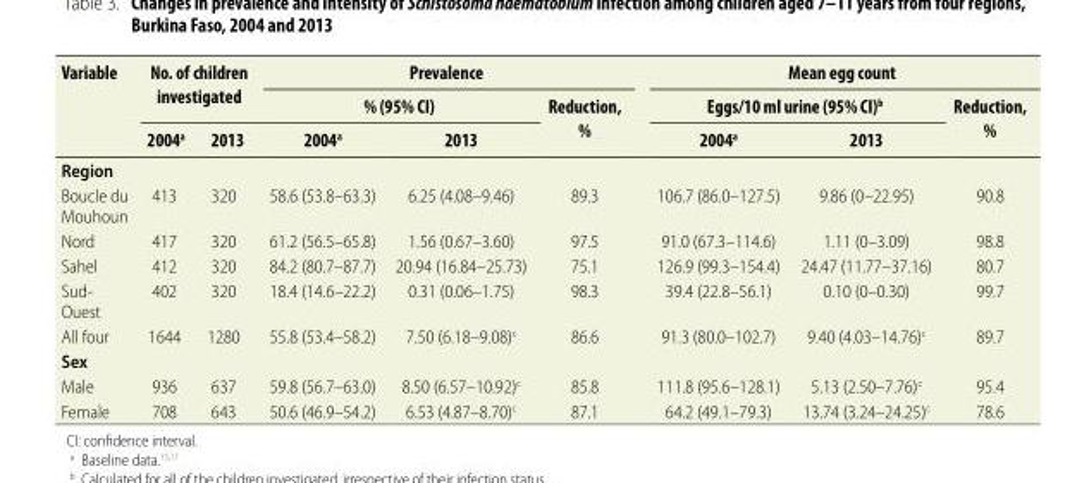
<table><thead><tr><td rowspan="3">Variable</td><td rowspan="2" colspan="2">No. of children investigated</td><td colspan="3">Prevalence</td><td colspan="3">Mean egg count</td></tr><tr><td colspan="2">% (95% CI)</td><td rowspan="2">Reduction, %</td><td colspan="2">Eggs/10 ml urine (95% CI)<sup>b</sup></td><td rowspan="2">Reduction, %</td></tr><tr><td>2004<sup>a</sup></td><td>2013</td><td>2004<sup>a</sup></td><td>2013</td><td>2004<sup>a</sup></td><td>2013</td></tr></thead><tbody><tr><td colspan="9">Region</td></tr><tr><td>Boucle du Mouhoun</td><td>413</td><td>320</td><td>58.6 (53.8–63.3)</td><td>6.25 (4.08–9.46)</td><td>89.3</td><td>106.7 (86.0–127.5)</td><td>9.86 (0–22.95)</td><td>90.8</td></tr><tr><td>Nord</td><td>417</td><td>320</td><td>61.2 (56.5–65.8)</td><td>1.56 (0.67–3.60)</td><td>97.5</td><td>91.0 (67.3–114.6)</td><td>1.11 (0–3.09)</td><td>98.8</td></tr><tr><td>Sahel</td><td>412</td><td>320</td><td>84.2 (80.7–87.7)</td><td>20.94 (16.84–25.73)</td><td>75.1</td><td>126.9 (99.3–154.4)</td><td>24.47 (11.77–37.16)</td><td>80.7</td></tr><tr><td>Sud- Ouest</td><td>402</td><td>320</td><td>18.4 (14.6–22.2)</td><td>0.31 (0.06–1.75)</td><td>98.3</td><td>39.4 (22.8–56.1)</td><td>0.10 (0–0.30)</td><td>99.7</td></tr><tr><td>All four</td><td>1644</td><td>1280</td><td>55.8 (53.4–58.2)</td><td>7.50 (6.18–9.08)<sup>c</sup></td><td>86.6</td><td>91.3 (80.0–102.7)</td><td>9.40 (4.03–14.76)<sup>c</sup></td><td>89.7</td></tr><tr><td colspan="9">Sex</td></tr><tr><td>Male</td><td>936</td><td>637</td><td>59.8 (56.7–63.0)</td><td>8.50 (6.57–10.92)<sup>c</sup></td><td>85.8</td><td>111.8 (95.6–128.1)</td><td>5.13 (2.50–7.76)<sup>c</sup></td><td>95.4</td></tr><tr><td>Female</td><td>708</td><td>643</td><td>50.6 (46.9–54.2)</td><td>6.53 (4.87–8.70)<sup>c</sup></td><td>87.1</td><td>64.2 (49.1–79.3)</td><td>13.74 (3.24–24.25)<sup>c</sup></td><td>78.6</td></tr></tbody></table>